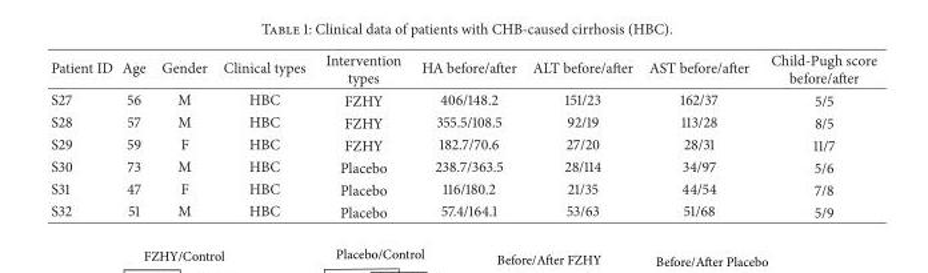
<table><thead><tr><td>Patient ID</td><td>Age</td><td>Gender</td><td>Clinical types</td><td>Intervention types</td><td>HA before/after</td><td>ALT before/after</td><td>AST before/after</td><td>Child-Pugh score before/after</td></tr></thead><tbody><tr><td>S27</td><td>56</td><td>M</td><td>HBC</td><td>FZHY</td><td>406/148.2</td><td>151/23</td><td>162/37</td><td>5/5</td></tr><tr><td>S28</td><td>57</td><td>M</td><td>HBC</td><td>FZHY</td><td>355.5/108.5</td><td>92/19</td><td>113/28</td><td>8/5</td></tr><tr><td>S29</td><td>59</td><td>F</td><td>HBC</td><td>FZHY</td><td>182.7/70.6</td><td>27/20</td><td>28/31</td><td>11/7</td></tr><tr><td>S30</td><td>73</td><td>M</td><td>HBC</td><td>Placebo</td><td>238.7/363.5</td><td>28/114</td><td>34/97</td><td>5/6</td></tr><tr><td>S31</td><td>47</td><td>F</td><td>HBC</td><td>Placebo</td><td>116/180.2</td><td>21/35</td><td>44/54</td><td>7/8</td></tr><tr><td>S32</td><td>51</td><td>M</td><td>HBC</td><td>Placebo</td><td>57.4/164.1</td><td>53/63</td><td>51/68</td><td>5/9</td></tr></tbody></table>